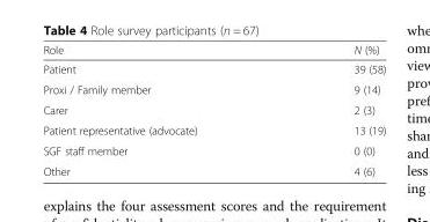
<table><thead><tr><td>Role</td><td>N (%)</td></tr></thead><tbody><tr><td>Patient</td><td>39 (58)</td></tr><tr><td>Proxi / Family member</td><td>9 (14)</td></tr><tr><td>Carer</td><td>2 (3)</td></tr><tr><td>Patient representative (advocate)</td><td>13 (19)</td></tr><tr><td>SGF staff member</td><td>0 (0)</td></tr><tr><td>Other</td><td>4 (6)</td></tr></tbody></table>